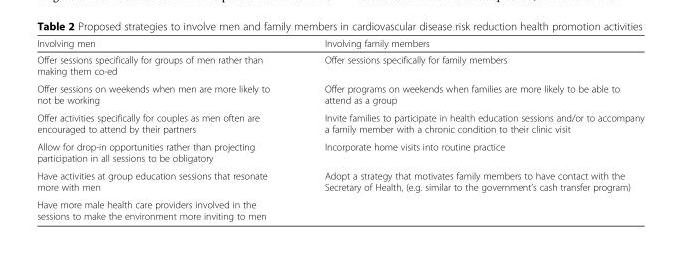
<table><thead><tr><td>Involving men</td><td>Involving family members</td></tr></thead><tbody><tr><td>Offer sessions specifically for groups of men rather than making them co-ed</td><td>Offer sessions specifically for family members</td></tr><tr><td>Offer sessions on weekends when men are more likely to not be working</td><td>Offer programs on weekends when families are more likely to be able to attend as a group</td></tr><tr><td>Offer activities specifically for couples as men often are encouraged to attend by their partners</td><td>Invite families to participate in health education sessions and/or to accompany a family member with a chronic condition to their clinic visit</td></tr><tr><td>Allow for drop-in opportunities rather than projecting participation in all sessions to be obligatory</td><td>Incorporate home visits into routine practice</td></tr><tr><td>Have activities at group education sessions that resonate more with men</td><td>Adopt a strategy that motivates family members to have contact with the Secretary of Health, (e.g. similar to the government’s cash transfer program)</td></tr><tr><td>Have more male health care providers involved in the sessions to make the environment more inviting to men</td><td></td></tr></tbody></table>